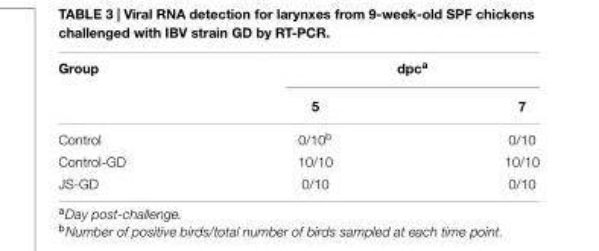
<table><thead><tr><td rowspan="2">Group</td><td colspan="2">dpc<sup>a</sup></td></tr><tr><td>5</td><td>7</td></tr></thead><tbody><tr><td>Control</td><td>0/10<sup>b</sup></td><td>0/10</td></tr><tr><td>Control-GD</td><td>10/10</td><td>10/10</td></tr><tr><td>JS-GD</td><td>0/10</td><td>0/10</td></tr></tbody></table>